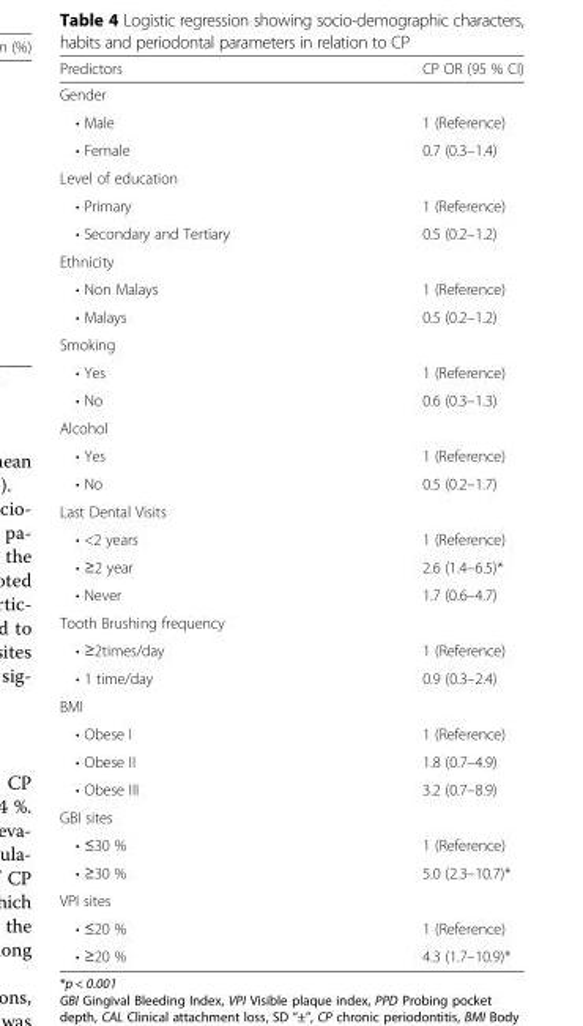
<table><thead><tr><td>Predictors</td><td>CP OR (95 % CI)</td></tr></thead><tbody><tr><td colspan="2">Gender</td></tr><tr><td>• Male</td><td>1 (Reference)</td></tr><tr><td>• Female</td><td>0.7 (0.3–1.4)</td></tr><tr><td colspan="2">Level of education</td></tr><tr><td>• Primary</td><td>1 (Reference)</td></tr><tr><td>• Secondary and Tertiary</td><td>0.5 (0.2–1.2)</td></tr><tr><td colspan="2">Ethnicity</td></tr><tr><td>• Non Malays</td><td>1 (Reference)</td></tr><tr><td>• Malays</td><td>0.5 (0.2–1.2)</td></tr><tr><td colspan="2">Smoking</td></tr><tr><td>• Yes</td><td>1 (Reference)</td></tr><tr><td>• No</td><td>0.6 (0.3–1.3)</td></tr><tr><td colspan="2">Alcohol</td></tr><tr><td>• Yes</td><td>1 (Reference)</td></tr><tr><td>• No</td><td>0.5 (0.2–1.7)</td></tr><tr><td colspan="2">Last Dental Visits</td></tr><tr><td>• &lt;2 years</td><td>1 (Reference)</td></tr><tr><td>• ≥2 year</td><td>2.6 (1.4–6.5)*</td></tr><tr><td>• Never</td><td>1.7 (0.6–4.7)</td></tr><tr><td colspan="2">Tooth Brushing frequency</td></tr><tr><td>• ≥2times/day</td><td>1 (Reference)</td></tr><tr><td>• 1 time/day</td><td>0.9 (0.3–2.4)</td></tr><tr><td colspan="2">BMI</td></tr><tr><td>• Obese I</td><td>1 (Reference)</td></tr><tr><td>• Obese II</td><td>1.8 (0.7–4.9)</td></tr><tr><td>• Obese III</td><td>3.2 (0.7–8.9)</td></tr><tr><td colspan="2">GBI sites</td></tr><tr><td>• ≤30 %</td><td>1 (Reference)</td></tr><tr><td>• ≥30 %</td><td>5.0 (2.3–10.7)*</td></tr><tr><td colspan="2">VPI sites</td></tr><tr><td>• ≤20 %</td><td>1 (Reference)</td></tr><tr><td>• ≥20 %</td><td>4.3 (1.7–10.9)*</td></tr></tbody></table>